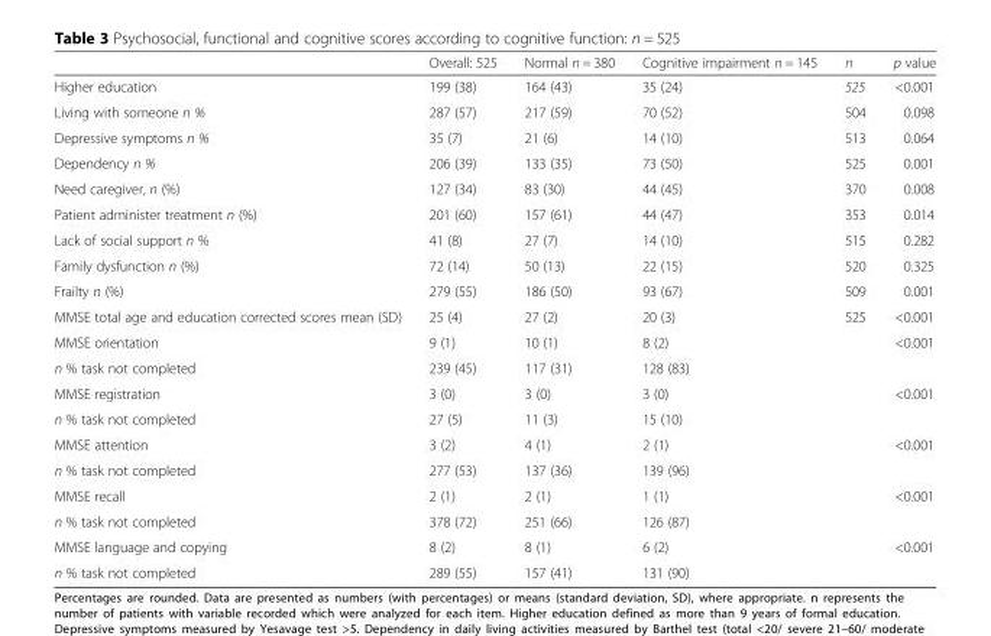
<table><thead><tr><td></td><td>Overall: 525</td><td>Normal n = 380</td><td>Cognitive impairment n = 145</td><td>n</td><td>p value</td></tr></thead><tbody><tr><td>Higher education</td><td>199 (38)</td><td>164 (43)</td><td>35 (24)</td><td>525</td><td>&lt;0.001</td></tr><tr><td>Living with someone n %</td><td>287 (57)</td><td>217 (59)</td><td>70 (52)</td><td>504</td><td>0.098</td></tr><tr><td>Depressive symptoms n %</td><td>35 (7)</td><td>21 (6)</td><td>14 (10)</td><td>513</td><td>0.064</td></tr><tr><td>Dependency n %</td><td>206 (39)</td><td>133 (35)</td><td>73 (50)</td><td>525</td><td>0.001</td></tr><tr><td>Need caregiver, n (%)</td><td>127 (34)</td><td>83 (30)</td><td>44 (45)</td><td>370</td><td>0.008</td></tr><tr><td>Patient administer treatment n (%)</td><td>201 (60)</td><td>157 (61)</td><td>44 (47)</td><td>353</td><td>0.014</td></tr><tr><td>Lack of social support n %</td><td>41 (8)</td><td>27 (7)</td><td>14 (10)</td><td>515</td><td>0.282</td></tr><tr><td>Family dysfunction n (%)</td><td>72 (14)</td><td>50 (13)</td><td>22 (15)</td><td>520</td><td>0.325</td></tr><tr><td>Frailty n (%)</td><td>279 (55)</td><td>186 (50)</td><td>93 (67)</td><td>509</td><td>0.001</td></tr><tr><td>MMSE total age and education corrected scores mean (SD)</td><td>25 (4)</td><td>27 (2)</td><td>20 (3)</td><td>525</td><td>&lt;0.001</td></tr><tr><td>MMSE orientation</td><td>9 (1)</td><td>10 (1)</td><td>8 (2)</td><td rowspan="2"></td><td rowspan="2">&lt;0.001</td></tr><tr><td>n % task not completed</td><td>239 (45)</td><td>117 (31)</td><td>128 (83)</td></tr><tr><td>MMSE registration</td><td>3 (0)</td><td>3 (0)</td><td>3 (0)</td><td rowspan="2"></td><td rowspan="2">&lt;0.001</td></tr><tr><td>n % task not completed</td><td>27 (5)</td><td>11 (3)</td><td>15 (10)</td></tr><tr><td>MMSE attention</td><td>3 (2)</td><td>4 (1)</td><td>2 (1)</td><td rowspan="2"></td><td rowspan="2">&lt;0.001</td></tr><tr><td>n % task not completed</td><td>277 (53)</td><td>137 (36)</td><td>139 (96)</td></tr><tr><td>MMSE recall</td><td>2 (1)</td><td>2 (1)</td><td>1 (1)</td><td rowspan="2"></td><td rowspan="2">&lt;0.001</td></tr><tr><td>n % task not completed</td><td>378 (72)</td><td>251 (66)</td><td>126 (87)</td></tr><tr><td>MMSE language and copying</td><td>8 (2)</td><td>8 (1)</td><td>6 (2)</td><td rowspan="2"></td><td rowspan="2">&lt;0.001</td></tr><tr><td>n % task not completed</td><td>289 (55)</td><td>157 (41)</td><td>131 (90)</td></tr></tbody></table>